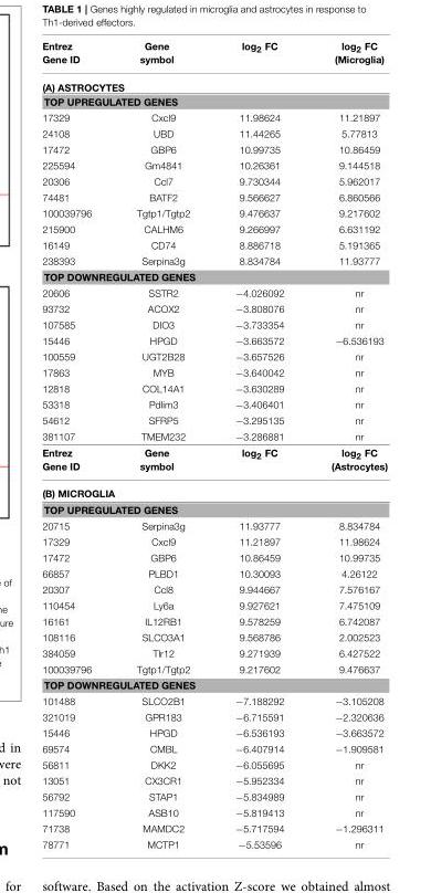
<table><thead><tr><td>Entrez Gene ID</td><td>Gene symbol</td><td>log<sub>2</sub> FC</td><td>log<sub>2</sub> FC (Microglia)</td></tr></thead><tbody><tr><td colspan="4">(A) ASTROCYTES</td></tr><tr><td colspan="4">TOP UPREGULATED GENES</td></tr><tr><td>17329</td><td>Cxcl9</td><td>11.98624</td><td>11.21897</td></tr><tr><td>24108</td><td>UBD</td><td>11.44265</td><td>5.77813</td></tr><tr><td>17472</td><td>GBP6</td><td>10.99735</td><td>10.86459</td></tr><tr><td>225594</td><td>Gm4841</td><td>10.26361</td><td>9.144518</td></tr><tr><td>20306</td><td>Ccl7</td><td>9.730344</td><td>5.962017</td></tr><tr><td>74481</td><td>BATF2</td><td>9.566627</td><td>6.860566</td></tr><tr><td>100039796</td><td>Tgtp1/Tgtp2</td><td>9.476637</td><td>9.217602</td></tr><tr><td>215900</td><td>CALHM6</td><td>9.266997</td><td>6.631192</td></tr><tr><td>16149</td><td>CD74</td><td>8.886718</td><td>5.191365</td></tr><tr><td>238393</td><td>Serpina3g</td><td>8.834784</td><td>11.93777</td></tr><tr><td colspan="4">TOP DOWNREGULATED GENES</td></tr><tr><td>20606</td><td>SSTR2</td><td>−4.026092</td><td>nr</td></tr><tr><td>93732</td><td>ACOX2</td><td>−3.808076</td><td>nr</td></tr><tr><td>107585</td><td>DIO3</td><td>−3.733354</td><td>nr</td></tr><tr><td>15446</td><td>HPGD</td><td>−3.663572</td><td>−6.536193</td></tr><tr><td>100559</td><td>UGT2B28</td><td>−3.657526</td><td>nr</td></tr><tr><td>17863</td><td>MYB</td><td>−3.640042</td><td>nr</td></tr><tr><td>12818</td><td>COL14A1</td><td>−3.630289</td><td>nr</td></tr><tr><td>53318</td><td>Pdlim3</td><td>−3.406401</td><td>nr</td></tr><tr><td>54612</td><td>SFRP5</td><td>−3.295135</td><td>nr</td></tr><tr><td>381107</td><td>TMEM232</td><td>−3.286881</td><td>nr</td></tr><tr><td>Entrez Gene ID</td><td>Gene symbol</td><td>log<sub>2</sub> FC</td><td>log<sub>2</sub> FC (Astrocytes)</td></tr><tr><td colspan="4">(B) MICROGLIA</td></tr><tr><td colspan="4">TOP UPREGULATED GENES</td></tr><tr><td>20715</td><td>Serpina3g</td><td>11.93777</td><td>8.834784</td></tr><tr><td>17329</td><td>Cxcl9</td><td>11.21897</td><td>11.98624</td></tr><tr><td>17472</td><td>GBP6</td><td>10.86459</td><td>10.99735</td></tr><tr><td>66857</td><td>PLBD1</td><td>10.30093</td><td>4.26122</td></tr><tr><td>20307</td><td>Ccl8</td><td>9.944667</td><td>7.576167</td></tr><tr><td>110454</td><td>Ly6a</td><td>9.927621</td><td>7.475109</td></tr><tr><td>16161</td><td>IL12RB1</td><td>9.578259</td><td>6.742087</td></tr><tr><td>108116</td><td>SLCO3A1</td><td>9.568786</td><td>2.002523</td></tr><tr><td>384059</td><td>Tlr12</td><td>9.271939</td><td>6.427522</td></tr><tr><td>100039796</td><td>Tgtp1/Tgtp2</td><td>9.217602</td><td>9.476637</td></tr><tr><td colspan="4">TOP DOWNREGULATED GENES</td></tr><tr><td>101488</td><td>SLCO2B1</td><td>−7.188292</td><td>−3.105208</td></tr><tr><td>321019</td><td>GPR183</td><td>−6.715591</td><td>−2.320636</td></tr><tr><td>15446</td><td>HPGD</td><td>−6.536193</td><td>−3.663572</td></tr><tr><td>69574</td><td>CMBL</td><td>−6.407914</td><td>−1.909581</td></tr><tr><td>56811</td><td>DKK2</td><td>−6.055695</td><td>nr</td></tr><tr><td>13051</td><td>CX3CR1</td><td>−5.952334</td><td>nr</td></tr><tr><td>56792</td><td>STAP1</td><td>−5.834989</td><td>nr</td></tr><tr><td>117590</td><td>ASB10</td><td>−5.819413</td><td>nr</td></tr><tr><td>71738</td><td>MAMDC2</td><td>−5.717594</td><td>−1.296311</td></tr><tr><td>78771</td><td>MCTP1</td><td>−5.53596</td><td>nr</td></tr></tbody></table>